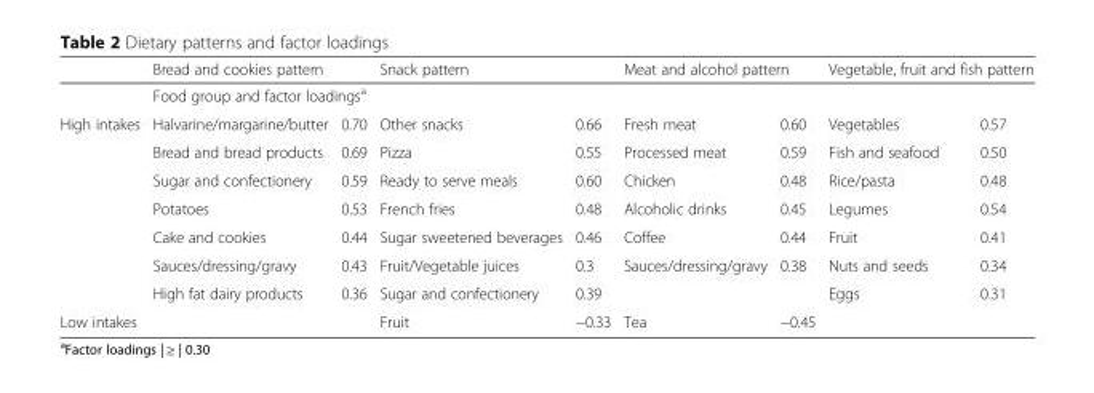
<table><thead><tr><td rowspan="3">High intakes</td><td rowspan="2" colspan="2">Bread and cookies pattern Food group and factor loadings<sup>a</sup></td><td rowspan="2" colspan="2">Snack pattern</td><td rowspan="2" colspan="2">Meat and alcohol pattern</td><td rowspan="2" colspan="2">Vegetable, fruit and fish pattern</td></tr><tr></tr><tr><td>Halvarine/margarine/butter</td><td>0.70</td><td>Other snacks</td><td>0.66</td><td>Fresh meat</td><td>0.60</td><td>Vegetables</td><td>0.57</td></tr></thead><tbody><tr><td></td><td>Bread and bread products</td><td>0.69</td><td>Pizza</td><td>0.55</td><td>Processed meat</td><td>0.59</td><td>Fish and seafood</td><td>0.50</td></tr><tr><td></td><td>Sugar and confectionery</td><td>0.59</td><td>Ready to serve meals</td><td>0.60</td><td>Chicken</td><td>0.48</td><td>Rice/pasta</td><td>0.48</td></tr><tr><td></td><td>Potatoes</td><td>0.53</td><td>French fries</td><td>0.48</td><td>Alcoholic drinks</td><td>0.45</td><td>Legumes</td><td>0.54</td></tr><tr><td></td><td>Cake and cookies</td><td>0.44</td><td>Sugar sweetened beverages</td><td>0.46</td><td>Coffee</td><td>0.44</td><td>Fruit</td><td>0.41</td></tr><tr><td></td><td>Sauces/dressing/gravy</td><td>0.43</td><td>Fruit/Vegetable juices</td><td>0.3</td><td>Sauces/dressing/gravy</td><td>0.38</td><td>Nuts and seeds</td><td>0.34</td></tr><tr><td></td><td>High fat dairy products</td><td>0.36</td><td>Sugar and confectionery</td><td>0.39</td><td></td><td></td><td>Eggs</td><td>0.31</td></tr><tr><td>Low intakes</td><td></td><td></td><td>Fruit</td><td>−0.33</td><td>Tea</td><td>−0.45</td><td></td><td></td></tr></tbody></table>